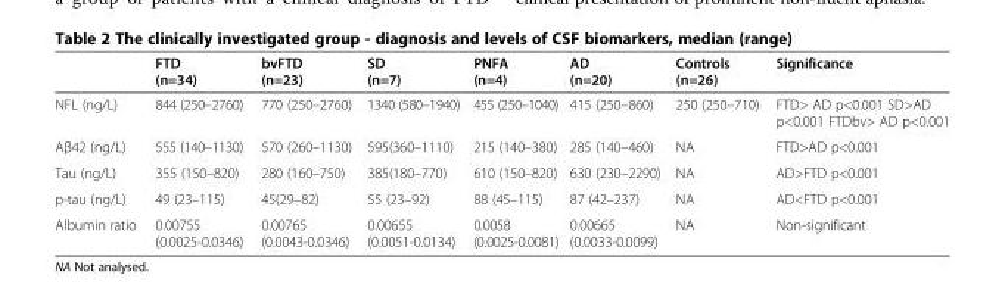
<table><thead><tr><td></td><td>FTD (n=34)</td><td>bvFTD (n=23)</td><td>SD (n=7)</td><td>PNFA (n=4)</td><td>AD (n=20)</td><td>Controls (n=26)</td><td>Significance</td></tr></thead><tbody><tr><td>NFL (ng/L)</td><td>844 (250–2760)</td><td>770 (250–2760)</td><td>1340 (580–1940)</td><td>455 (250–1040)</td><td>415 (250–860)</td><td>250 (250–710)</td><td>FTD&gt; AD p&lt;0.001 SD&gt;AD p&lt;0.001 FTDbv&gt; AD p&lt;0.001</td></tr><tr><td>Aβ42 (ng/L)</td><td>555 (140–1130)</td><td>570 (260–1130)</td><td>595(360–1110)</td><td>215 (140–380)</td><td>285 (140–460)</td><td>NA</td><td>FTD&gt;AD p&lt;0.001</td></tr><tr><td>Tau (ng/L)</td><td>355 (150–820)</td><td>280 (160–750)</td><td>385(180–770)</td><td>610 (150–820)</td><td>630 (230–2290)</td><td>NA</td><td>AD&gt;FTD p&lt;0.001</td></tr><tr><td>p-tau (ng/L)</td><td>49 (23–115)</td><td>45(29–82)</td><td>55 (23–92)</td><td>88 (45–115)</td><td>87 (42–237)</td><td>NA</td><td>AD&lt;FTD p&lt;0.001</td></tr><tr><td>Albumin ratio</td><td>0.00755 (0.0025-0.0346)</td><td>0.00765 (0.0043-0.0346)</td><td>0.00655 (0.0051-0.0134)</td><td>0.0058 (0.0025-0.0081)</td><td>0.00665 (0.0033-0.0099)</td><td>NA</td><td>Non-significant</td></tr></tbody></table>